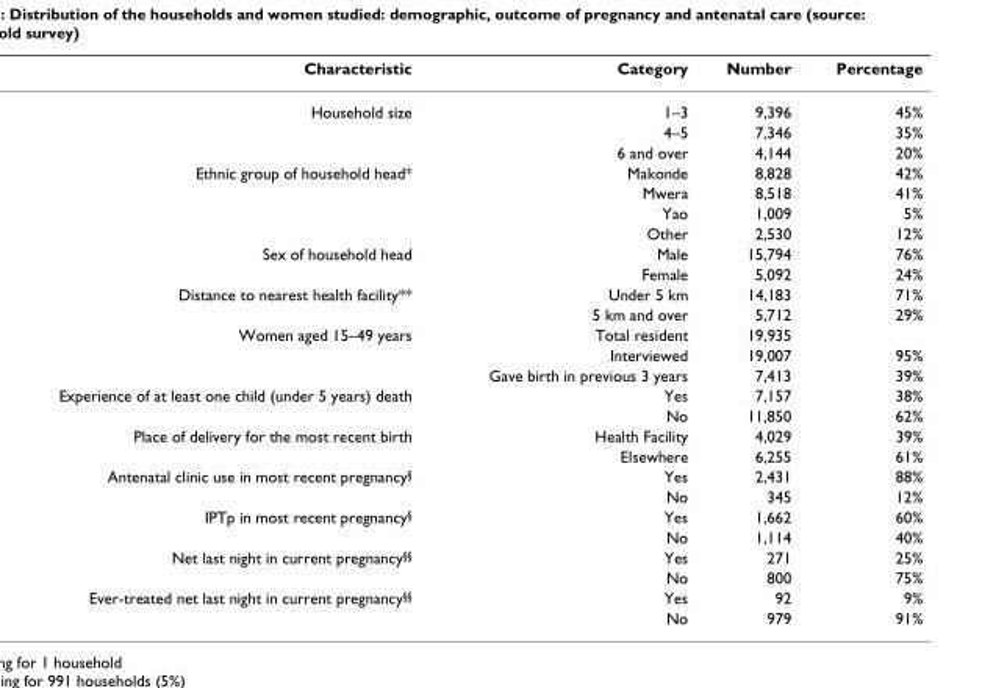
<table><thead><tr><td>Characteristic</td><td>Category</td><td>Number</td><td>Percentage</td></tr></thead><tbody><tr><td rowspan="3">Household size</td><td>1–3</td><td>9,396</td><td>45%</td></tr><tr><td>4–5</td><td>7,346</td><td>35%</td></tr><tr><td>6 and over</td><td>4,144</td><td>20%</td></tr><tr><td rowspan="4">Ethnic group of household head*</td><td>Makonde</td><td>8,828</td><td>42%</td></tr><tr><td>Mwera</td><td>8,518</td><td>41%</td></tr><tr><td>Yao</td><td>1,009</td><td>5%</td></tr><tr><td>Other</td><td>2,530</td><td>12%</td></tr><tr><td rowspan="2">Sex of household head</td><td>Male</td><td>15,794</td><td>76%</td></tr><tr><td>Female</td><td>5,092</td><td>24%</td></tr><tr><td rowspan="2">Distance to nearest health facility**</td><td>Under 5 km</td><td>14,183</td><td>71%</td></tr><tr><td>5 km and over</td><td>5,712</td><td>29%</td></tr><tr><td rowspan="3">Women aged 15–49 years</td><td>Total resident</td><td>19,935</td><td></td></tr><tr><td>Interviewed</td><td>19,007</td><td>95%</td></tr><tr><td>Gave birth in previous 3 years</td><td>7,413</td><td>39%</td></tr><tr><td rowspan="2">Experience of at least one child (under 5 years) death</td><td>Yes</td><td>7,157</td><td>38%</td></tr><tr><td>No</td><td>11,850</td><td>62%</td></tr><tr><td rowspan="2">Place of delivery for the most recent birth</td><td>Health Facility</td><td>4,029</td><td>39%</td></tr><tr><td>Elsewhere</td><td>6,255</td><td>61%</td></tr><tr><td rowspan="2">Antenatal clinic use in most recent pregnancy<sup>§</sup></td><td>Yes</td><td>2,431</td><td>88%</td></tr><tr><td>No</td><td>345</td><td>12%</td></tr><tr><td rowspan="2">IPTp in most recent pregnancy<sup>§</sup></td><td>Yes</td><td>1,662</td><td>60%</td></tr><tr><td>No</td><td>1,114</td><td>40%</td></tr><tr><td rowspan="2">Net last night in current pregnancy<sup>§§</sup></td><td>Yes</td><td>271</td><td>25%</td></tr><tr><td>No</td><td>800</td><td>75%</td></tr><tr><td rowspan="2">Ever-treated net last night in current pregnancy<sup>§§</sup></td><td>Yes</td><td>92</td><td>9%</td></tr><tr><td>No</td><td>979</td><td>91%</td></tr></tbody></table>